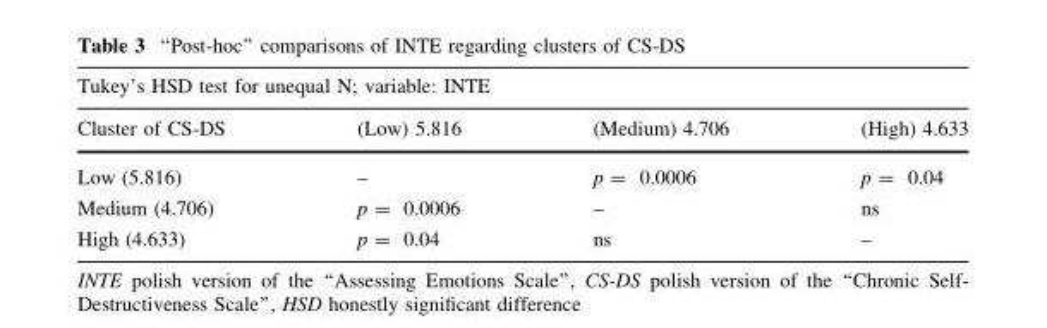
<table><thead><tr><td colspan="4">Tukey’s HSD test for unequal N; variable: INTE</td></tr><tr><td>Cluster of CS-DS</td><td>(Low) 5.816</td><td>(Medium) 4.706</td><td>(High) 4.633</td></tr></thead><tbody><tr><td>Low (5.816)</td><td>–</td><td>p = 0.0006</td><td>p = 0.04</td></tr><tr><td>Medium (4.706)</td><td>p = 0.0006</td><td>–</td><td>ns</td></tr><tr><td>High (4.633)</td><td>p = 0.04</td><td>ns</td><td>–</td></tr></tbody></table>